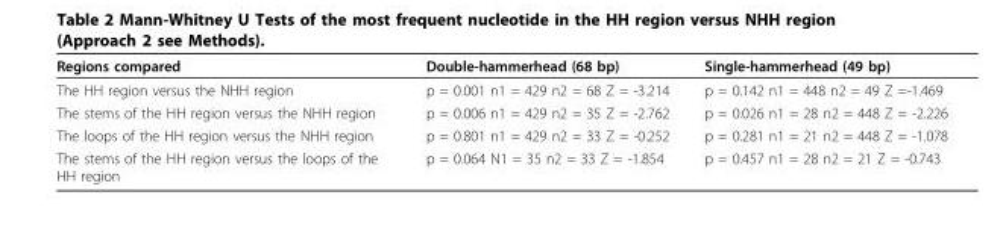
<table><thead><tr><td>Regions compared</td><td>Double-hammerhead (68 bp)</td><td>Single-hammerhead (49 bp)</td></tr></thead><tbody><tr><td>The HH region versus the NHH region</td><td>p = 0.001 n1 = 429 n2 = 68 Z = -3.214</td><td>p = 0.142 n1 = 448 n2 = 49 Z =-1.469</td></tr><tr><td>The stems of the HH region versus the NHH region</td><td>p = 0.006 n1 = 429 n2 = 35 Z = -2.762</td><td>p = 0.026 n1 = 28 n2 = 448 Z = -2.226</td></tr><tr><td>The loops of the HH region versus the NHH region</td><td>p = 0.801 n1 = 429 n2 = 33 Z = -0.252</td><td>p = 0.281 n1 = 21 n2 = 448 Z = -1.078</td></tr><tr><td>The stems of the HH region versus the loops of the HH region</td><td>p = 0.064 N1 = 35 n2 = 33 Z = -1.854</td><td>p = 0.457 n1 = 28 n2 = 21 Z = -0.743</td></tr></tbody></table>